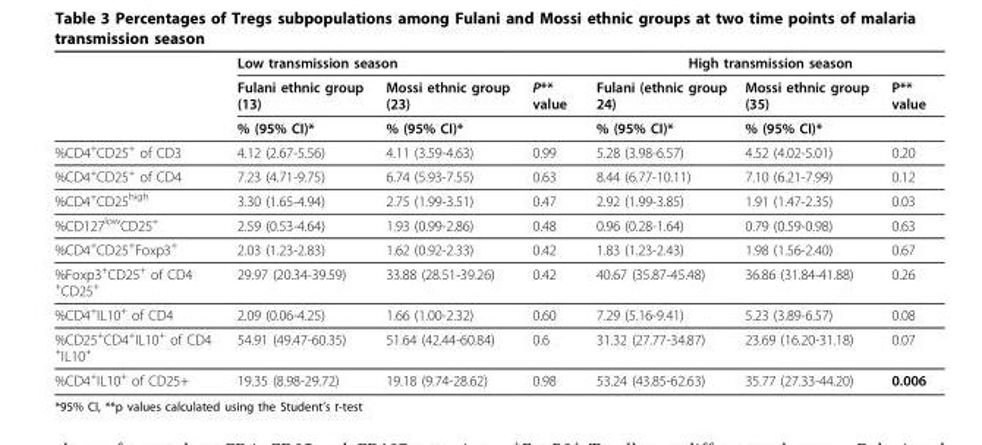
<table><thead><tr><td rowspan="3"></td><td colspan="3">Low transmission season</td><td colspan="3">High transmission season</td></tr><tr><td rowspan="2">Fulani ethnic group (13) % (95% CI)*</td><td rowspan="2">Mossi ethnic group (23) % (95% CI)*</td><td rowspan="2">P** value</td><td rowspan="2">Fulani (ethnic group 24) % (95% CI)*</td><td rowspan="2">Mossi ethnic group (35) % (95% CI)*</td><td rowspan="2">P** value</td></tr><tr></tr></thead><tbody><tr><td>%CD4<sup>+</sup>CD25<sup>+</sup> of CD3</td><td>4.12 (2.67-5.56)</td><td>4.11 (3.59-4.63)</td><td>0.99</td><td>5.28 (3.98-6.57)</td><td>4.52 (4.02-5.01)</td><td>0.20</td></tr><tr><td>%CD4<sup>+</sup>CD25<sup>+</sup> of CD4</td><td>7.23 (4.71-9.75)</td><td>6.74 (5.93-7.55)</td><td>0.63</td><td>8.44 (6.77-10.11)</td><td>7.10 (6.21-7.99)</td><td>0.12</td></tr><tr><td>%CD4<sup>+</sup>CD25<sup>high</sup></td><td>3.30 (1.65-4.94)</td><td>2.75 (1.99-3.51)</td><td>0.47</td><td>2.92 (1.99-3.85)</td><td>1.91 (1.47-2.35)</td><td>0.03</td></tr><tr><td>%CD127<sup>low</sup>CD25<sup>+</sup></td><td>2.59 (0.53-4.64)</td><td>1.93 (0.99-2.86)</td><td>0.48</td><td>0.96 (0.28-1.64)</td><td>0.79 (0.59-0.98)</td><td>0.63</td></tr><tr><td>%CD4<sup>+</sup>CD25<sup>+</sup>Foxp3<sup>+</sup></td><td>2.03 (1.23-2.83)</td><td>1.62 (0.92-2.33)</td><td>0.42</td><td>1.83 (1.23-2.43)</td><td>1.98 (1.56-2.40)</td><td>0.67</td></tr><tr><td>%Foxp3<sup>+</sup>CD25<sup>+</sup> of CD4 <sup>+</sup>CD25<sup>+</sup></td><td>29.97 (20.34-39.59)</td><td>33.88 (28.51-39.26)</td><td>0.42</td><td>40.67 (35.87-45.48)</td><td>36.86 (31.84-41.88)</td><td>0.26</td></tr><tr><td>%CD4<sup>+</sup>IL10<sup>+</sup> of CD4</td><td>2.09 (0.06-4.25)</td><td>1.66 (1.00-2.32)</td><td>0.60</td><td>7.29 (5.16-9.41)</td><td>5.23 (3.89-6.57)</td><td>0.08</td></tr><tr><td>%CD25<sup>+</sup>CD4<sup>+</sup>IL10<sup>+</sup> of CD4 <sup>+</sup>IL10<sup>+</sup></td><td>54.91 (49.47-60.35)</td><td>51.64 (42.44-60.84)</td><td>0.6</td><td>31.32 (27.77-34.87)</td><td>23.69 (16.20-31.18)</td><td>0.07</td></tr><tr><td>%CD4<sup>+</sup>IL10<sup>+</sup> of CD25+</td><td>19.35 (8.98-29.72)</td><td>19.18 (9.74-28.62)</td><td>0.98</td><td>53.24 (43.85-62.63)</td><td>35.77 (27.33-44.20)</td><td>0.006</td></tr></tbody></table>